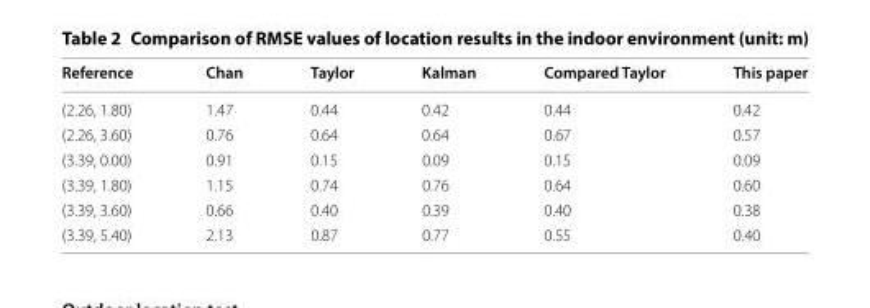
<table><thead><tr><td>Reference</td><td>Chan</td><td>Taylor</td><td>Kalman</td><td>Compared Taylor</td><td>This paper</td></tr></thead><tbody><tr><td>(2.26, 1.80)</td><td>1.47</td><td>0.44</td><td>0.42</td><td>0.44</td><td>0.42</td></tr><tr><td>(2.26, 3.60)</td><td>0.76</td><td>0.64</td><td>0.64</td><td>0.67</td><td>0.57</td></tr><tr><td>(3.39, 0.00)</td><td>0.91</td><td>0.15</td><td>0.09</td><td>0.15</td><td>0.09</td></tr><tr><td>(3.39, 1.80)</td><td>1.15</td><td>0.74</td><td>0.76</td><td>0.64</td><td>0.60</td></tr><tr><td>(3.39, 3.60)</td><td>0.66</td><td>0.40</td><td>0.39</td><td>0.40</td><td>0.38</td></tr><tr><td>(3.39, 5.40)</td><td>2.13</td><td>0.87</td><td>0.77</td><td>0.55</td><td>0.40</td></tr></tbody></table>